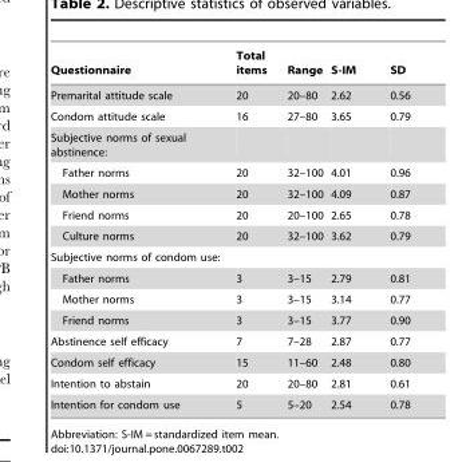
<table><thead><tr><td>Questionnaire</td><td>Total items</td><td>Range</td><td>S-IM</td><td>SD</td></tr></thead><tbody><tr><td>Premarital attitude scale</td><td>20</td><td>20–80</td><td>2.62</td><td>0.56</td></tr><tr><td>Condom attitude scale</td><td>16</td><td>27–80</td><td>3.65</td><td>0.79</td></tr><tr><td colspan="5">Subjective norms of sexual abstinence:</td></tr><tr><td>Father norms</td><td>20</td><td>32–100</td><td>4.01</td><td>0.96</td></tr><tr><td>Mother norms</td><td>20</td><td>32–100</td><td>4.09</td><td>0.87</td></tr><tr><td>Friend norms</td><td>20</td><td>20–100</td><td>2.65</td><td>0.78</td></tr><tr><td>Culture norms</td><td>20</td><td>32–100</td><td>3.62</td><td>0.79</td></tr><tr><td colspan="5">Subjective norms of condom use:</td></tr><tr><td>Father norms</td><td>3</td><td>3–15</td><td>2.79</td><td>0.81</td></tr><tr><td>Mother norms</td><td>3</td><td>3–15</td><td>3.14</td><td>0.77</td></tr><tr><td>Friend norms</td><td>3</td><td>3–15</td><td>3.77</td><td>0.90</td></tr><tr><td>Abstinence self efficacy</td><td>7</td><td>7–28</td><td>2.87</td><td>0.77</td></tr><tr><td>Condom self efficacy</td><td>15</td><td>11–60</td><td>2.48</td><td>0.80</td></tr><tr><td>Intention to abstain</td><td>20</td><td>20–80</td><td>2.81</td><td>0.61</td></tr><tr><td>Intention for condom use</td><td>5</td><td>5–20</td><td>2.54</td><td>0.78</td></tr></tbody></table>